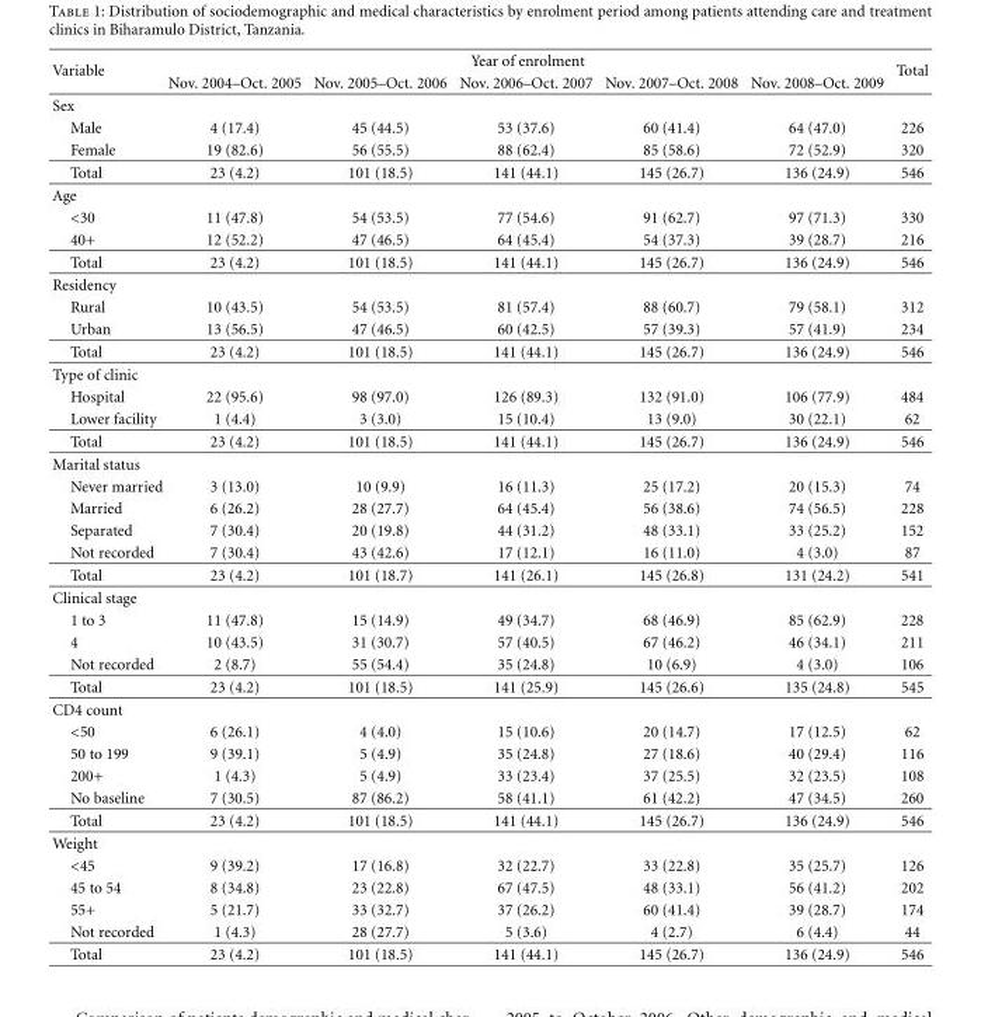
<table><thead><tr><td rowspan="2">Variable</td><td colspan="5">Year of enrolment</td><td rowspan="2">Total</td></tr><tr><td>Nov. 2004–Oct. 2005</td><td>Nov. 2005–Oct. 2006</td><td>Nov. 2006–Oct. 2007</td><td>Nov. 2007–Oct. 2008</td><td>Nov. 2008–Oct. 2009</td></tr></thead><tbody><tr><td colspan="7">Sex</td></tr><tr><td>Male</td><td>4 (17.4)</td><td>45 (44.5)</td><td>53 (37.6)</td><td>60 (41.4)</td><td>64 (47.0)</td><td>226</td></tr><tr><td>Female</td><td>19 (82.6)</td><td>56 (55.5)</td><td>88 (62.4)</td><td>85 (58.6)</td><td>72 (52.9)</td><td>320</td></tr><tr><td>Total</td><td>23 (4.2)</td><td>101 (18.5)</td><td>141 (44.1)</td><td>145 (26.7)</td><td>136 (24.9)</td><td>546</td></tr><tr><td colspan="7">Age</td></tr><tr><td>&lt;30</td><td>11 (47.8)</td><td>54 (53.5)</td><td>77 (54.6)</td><td>91 (62.7)</td><td>97 (71.3)</td><td>330</td></tr><tr><td>40+</td><td>12 (52.2)</td><td>47 (46.5)</td><td>64 (45.4)</td><td>54 (37.3)</td><td>39 (28.7)</td><td>216</td></tr><tr><td>Total</td><td>23 (4.2)</td><td>101 (18.5)</td><td>141 (44.1)</td><td>145 (26.7)</td><td>136 (24.9)</td><td>546</td></tr><tr><td colspan="7">Residency</td></tr><tr><td>Rural</td><td>10 (43.5)</td><td>54 (53.5)</td><td>81 (57.4)</td><td>88 (60.7)</td><td>79 (58.1)</td><td>312</td></tr><tr><td>Urban</td><td>13 (56.5)</td><td>47 (46.5)</td><td>60 (42.5)</td><td>57 (39.3)</td><td>57 (41.9)</td><td>234</td></tr><tr><td>Total</td><td>23 (4.2)</td><td>101 (18.5)</td><td>141 (44.1)</td><td>145 (26.7)</td><td>136 (24.9)</td><td>546</td></tr><tr><td colspan="7">Type of clinic</td></tr><tr><td>Hospital</td><td>22 (95.6)</td><td>98 (97.0)</td><td>126 (89.3)</td><td>132 (91.0)</td><td>106 (77.9)</td><td>484</td></tr><tr><td>Lower facility</td><td>1 (4.4)</td><td>3 (3.0)</td><td>15 (10.4)</td><td>13 (9.0)</td><td>30 (22.1)</td><td>62</td></tr><tr><td>Total</td><td>23 (4.2)</td><td>101 (18.5)</td><td>141 (44.1)</td><td>145 (26.7)</td><td>136 (24.9)</td><td>546</td></tr><tr><td colspan="7">Marital status</td></tr><tr><td>Never married</td><td>3 (13.0)</td><td>10 (9.9)</td><td>16 (11.3)</td><td>25 (17.2)</td><td>20 (15.3)</td><td>74</td></tr><tr><td>Married</td><td>6 (26.2)</td><td>28 (27.7)</td><td>64 (45.4)</td><td>56 (38.6)</td><td>74 (56.5)</td><td>228</td></tr><tr><td>Separated</td><td>7 (30.4)</td><td>20 (19.8)</td><td>44 (31.2)</td><td>48 (33.1)</td><td>33 (25.2)</td><td>152</td></tr><tr><td>Not recorded</td><td>7 (30.4)</td><td>43 (42.6)</td><td>17 (12.1)</td><td>16 (11.0)</td><td>4 (3.0)</td><td>87</td></tr><tr><td>Total</td><td>23 (4.2)</td><td>101 (18.7)</td><td>141 (26.1)</td><td>145 (26.8)</td><td>131 (24.2)</td><td>541</td></tr><tr><td colspan="7">Clinical stage</td></tr><tr><td>1 to 3</td><td>11 (47.8)</td><td>15 (14.9)</td><td>49 (34.7)</td><td>68 (46.9)</td><td>85 (62.9)</td><td>228</td></tr><tr><td>4</td><td>10 (43.5)</td><td>31 (30.7)</td><td>57 (40.5)</td><td>67 (46.2)</td><td>46 (34.1)</td><td>211</td></tr><tr><td>Not recorded</td><td>2 (8.7)</td><td>55 (54.4)</td><td>35 (24.8)</td><td>10 (6.9)</td><td>4 (3.0)</td><td>106</td></tr><tr><td>Total</td><td>23 (4.2)</td><td>101 (18.5)</td><td>141 (25.9)</td><td>145 (26.6)</td><td>135 (24.8)</td><td>545</td></tr><tr><td colspan="7">CD4 count</td></tr><tr><td>&lt;50</td><td>6 (26.1)</td><td>4 (4.0)</td><td>15 (10.6)</td><td>20 (14.7)</td><td>17 (12.5)</td><td>62</td></tr><tr><td>50 to 199</td><td>9 (39.1)</td><td>5 (4.9)</td><td>35 (24.8)</td><td>27 (18.6)</td><td>40 (29.4)</td><td>116</td></tr><tr><td>200+</td><td>1 (4.3)</td><td>5 (4.9)</td><td>33 (23.4)</td><td>37 (25.5)</td><td>32 (23.5)</td><td>108</td></tr><tr><td>No baseline</td><td>7 (30.5)</td><td>87 (86.2)</td><td>58 (41.1)</td><td>61 (42.2)</td><td>47 (34.5)</td><td>260</td></tr><tr><td>Total</td><td>23 (4.2)</td><td>101 (18.5)</td><td>141 (44.1)</td><td>145 (26.7)</td><td>136 (24.9)</td><td>546</td></tr><tr><td colspan="7">Weight</td></tr><tr><td>&lt;45</td><td>9 (39.2)</td><td>17 (16.8)</td><td>32 (22.7)</td><td>33 (22.8)</td><td>35 (25.7)</td><td>126</td></tr><tr><td>45 to 54</td><td>8 (34.8)</td><td>23 (22.8)</td><td>67 (47.5)</td><td>48 (33.1)</td><td>56 (41.2)</td><td>202</td></tr><tr><td>55+</td><td>5 (21.7)</td><td>33 (32.7)</td><td>37 (26.2)</td><td>60 (41.4)</td><td>39 (28.7)</td><td>174</td></tr><tr><td>Not recorded</td><td>1 (4.3)</td><td>28 (27.7)</td><td>5 (3.6)</td><td>4 (2.7)</td><td>6 (4.4)</td><td>44</td></tr><tr><td>Total</td><td>23 (4.2)</td><td>101 (18.5)</td><td>141 (44.1)</td><td>145 (26.7)</td><td>136 (24.9)</td><td>546</td></tr></tbody></table>